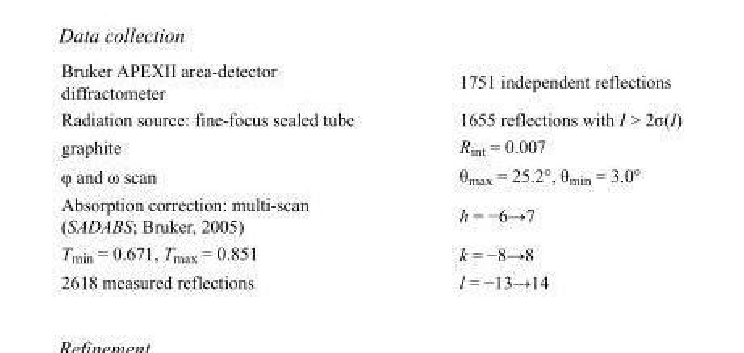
<table><tbody><tr><td>Bruker APEXII area-detector diffractometer</td><td>1751 independent reflections</td></tr><tr><td>Radiation source: fine-focus sealed tube</td><td>1655 reflections with I &gt; 2σ(I)</td></tr><tr><td>graphite</td><td>R<sub>int</sub> = 0.007</td></tr><tr><td>φ and ω scan</td><td>θ<sub>max</sub> = 25.2°, θ<sub>min</sub> = 3.0°</td></tr><tr><td>Absorption correction: multi-scan (SADABS; Bruker, 2005)</td><td>h = −6→7</td></tr><tr><td>T<sub>min</sub> = 0.671, T<sub>max</sub> = 0.851</td><td>k = −8→8</td></tr><tr><td>2618 measured reflections</td><td>l = −13→14</td></tr></tbody></table>